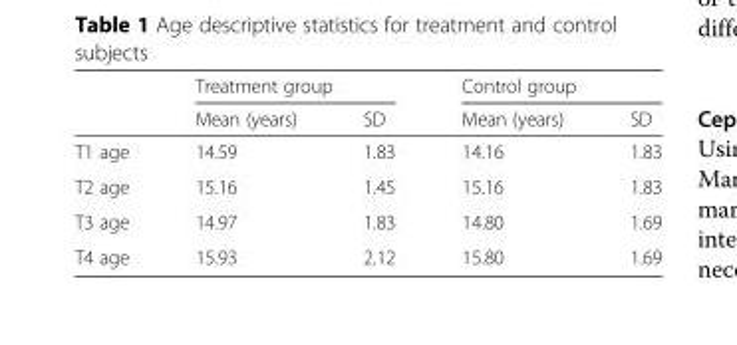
<table><thead><tr><td rowspan="2"></td><td colspan="2">Treatment group</td><td colspan="2">Control group</td></tr><tr><td>Mean (years)</td><td>SD</td><td>Mean (years)</td><td>SD</td></tr></thead><tbody><tr><td>T1 age</td><td>14.59</td><td>1.83</td><td>14.16</td><td>1.83</td></tr><tr><td>T2 age</td><td>15.16</td><td>1.45</td><td>15.16</td><td>1.83</td></tr><tr><td>T3 age</td><td>14.97</td><td>1.83</td><td>14.80</td><td>1.69</td></tr><tr><td>T4 age</td><td>15.93</td><td>2.12</td><td>15.80</td><td>1.69</td></tr></tbody></table>